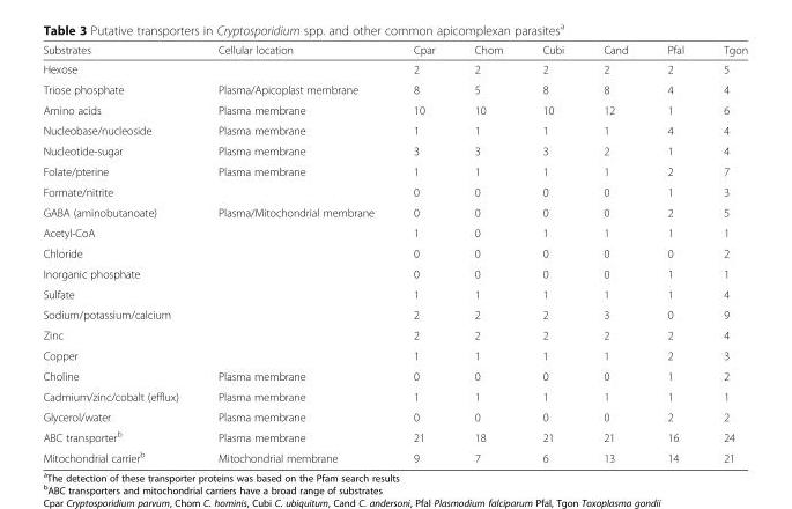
<table><thead><tr><td>Substrates</td><td>Cellular location</td><td>Cpar</td><td>Chom</td><td>Cubi</td><td>Cand</td><td>Pfal</td><td>Tgon</td></tr></thead><tbody><tr><td>Hexose</td><td></td><td>2</td><td>2</td><td>2</td><td>2</td><td>2</td><td>5</td></tr><tr><td>Triose phosphate</td><td>Plasma/Apicoplast membrane</td><td>8</td><td>5</td><td>8</td><td>8</td><td>4</td><td>4</td></tr><tr><td>Amino acids</td><td>Plasma membrane</td><td>10</td><td>10</td><td>10</td><td>12</td><td>1</td><td>6</td></tr><tr><td>Nucleobase/nucleoside</td><td>Plasma membrane</td><td>1</td><td>1</td><td>1</td><td>1</td><td>4</td><td>4</td></tr><tr><td>Nucleotide-sugar</td><td>Plasma membrane</td><td>3</td><td>3</td><td>3</td><td>2</td><td>1</td><td>4</td></tr><tr><td>Folate/pterine</td><td>Plasma membrane</td><td>1</td><td>1</td><td>1</td><td>1</td><td>2</td><td>7</td></tr><tr><td>Formate/nitrite</td><td></td><td>0</td><td>0</td><td>0</td><td>0</td><td>1</td><td>3</td></tr><tr><td>GABA (aminobutanoate)</td><td>Plasma/Mitochondrial membrane</td><td>0</td><td>0</td><td>0</td><td>0</td><td>2</td><td>5</td></tr><tr><td>Acetyl-CoA</td><td></td><td>1</td><td>0</td><td>1</td><td>1</td><td>1</td><td>1</td></tr><tr><td>Chloride</td><td></td><td>0</td><td>0</td><td>0</td><td>0</td><td>0</td><td>2</td></tr><tr><td>Inorganic phosphate</td><td></td><td>0</td><td>0</td><td>0</td><td>0</td><td>1</td><td>1</td></tr><tr><td>Sulfate</td><td></td><td>1</td><td>1</td><td>1</td><td>1</td><td>1</td><td>4</td></tr><tr><td>Sodium/potassium/calcium</td><td></td><td>2</td><td>2</td><td>2</td><td>3</td><td>0</td><td>9</td></tr><tr><td>Zinc</td><td></td><td>2</td><td>2</td><td>2</td><td>2</td><td>2</td><td>4</td></tr><tr><td>Copper</td><td></td><td>1</td><td>1</td><td>1</td><td>1</td><td>2</td><td>3</td></tr><tr><td>Choline</td><td>Plasma membrane</td><td>0</td><td>0</td><td>0</td><td>0</td><td>1</td><td>2</td></tr><tr><td>Cadmium/zinc/cobalt (efflux)</td><td>Plasma membrane</td><td>1</td><td>1</td><td>1</td><td>1</td><td>1</td><td>1</td></tr><tr><td>Glycerol/water</td><td>Plasma membrane</td><td>0</td><td>0</td><td>0</td><td>0</td><td>2</td><td>2</td></tr><tr><td>ABC transporter<sup>b</sup></td><td>Plasma membrane</td><td>21</td><td>18</td><td>21</td><td>21</td><td>16</td><td>24</td></tr><tr><td>Mitochondrial carrier<sup>b</sup></td><td>Mitochondrial membrane</td><td>9</td><td>7</td><td>6</td><td>13</td><td>14</td><td>21</td></tr></tbody></table>